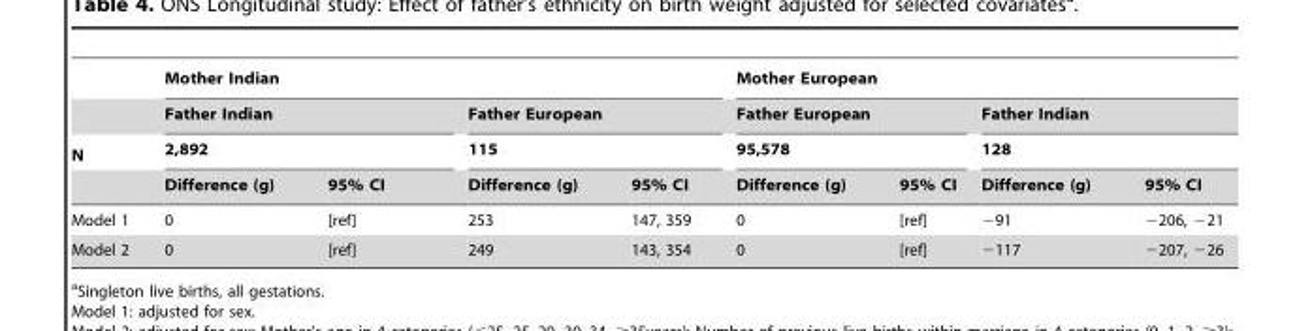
<table><thead><tr><td rowspan="4">N</td><td colspan="4">Mother Indian</td><td colspan="4">Mother European</td></tr><tr><td rowspan="2" colspan="2">Father Indian 2,892</td><td rowspan="2" colspan="2">Father European 115</td><td rowspan="2" colspan="2">Father European 95,578</td><td rowspan="2" colspan="2">Father Indian 128</td></tr><tr></tr><tr><td>Difference (g)</td><td>95% CI</td><td>Difference (g)</td><td>95% CI</td><td>Difference (g)</td><td>95% CI</td><td>Difference (g)</td><td>95% CI</td></tr></thead><tbody><tr><td>Model 1</td><td>0</td><td>[ref]</td><td>253</td><td>147, 359</td><td>0</td><td>[ref]</td><td>−91</td><td>−206, −21</td></tr><tr><td>Model 2</td><td>0</td><td>[ref]</td><td>249</td><td>143, 354</td><td>0</td><td>[ref]</td><td>−117</td><td>−207, −26</td></tr></tbody></table>